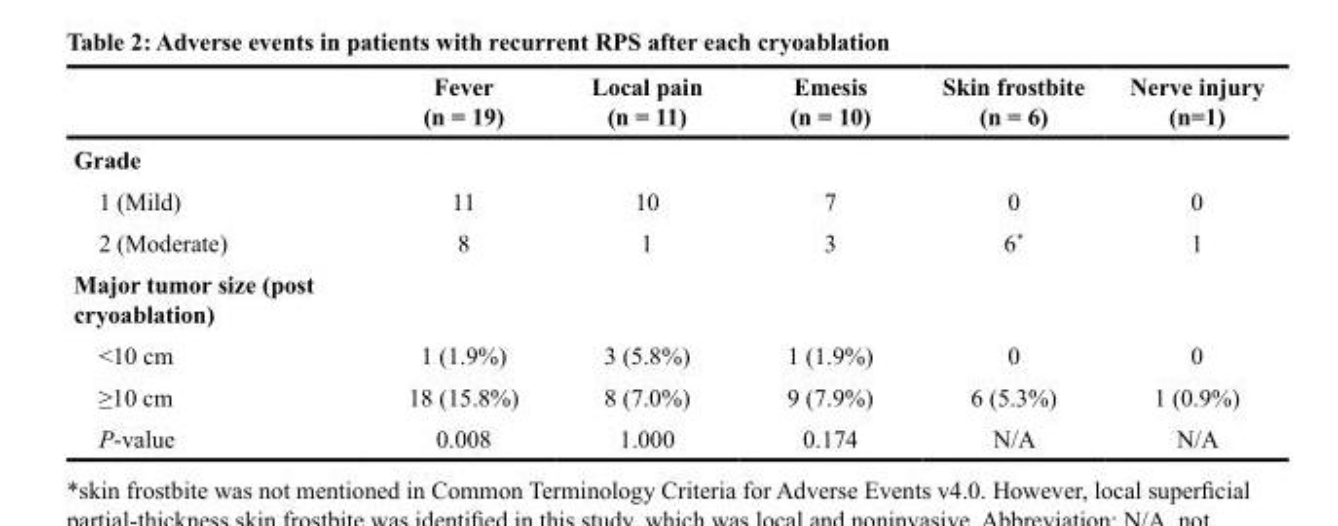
<table><thead><tr><td></td><td>Fever (n = 19)</td><td>Local pain (n = 11)</td><td>Emesis (n = 10)</td><td>Skin frostbite (n = 6)</td><td>Nerve injury (n=1)</td></tr></thead><tbody><tr><td colspan="6">Grade</td></tr><tr><td>1 (Mild)</td><td>11</td><td>10</td><td>7</td><td>0</td><td>0</td></tr><tr><td>2 (Moderate)</td><td>8</td><td>1</td><td>3</td><td>6*</td><td>1</td></tr><tr><td colspan="6">Major tumor size (post cryoablation)</td></tr><tr><td>&lt;10 cm</td><td>1 (1.9%)</td><td>3 (5.8%)</td><td>1 (1.9%)</td><td>0</td><td>0</td></tr><tr><td>≥10 cm</td><td>18 (15.8%)</td><td>8 (7.0%)</td><td>9 (7.9%)</td><td>6 (5.3%)</td><td>1 (0.9%)</td></tr><tr><td>P-value</td><td>0.008</td><td>1.000</td><td>0.174</td><td>N/A</td><td>N/A</td></tr></tbody></table>